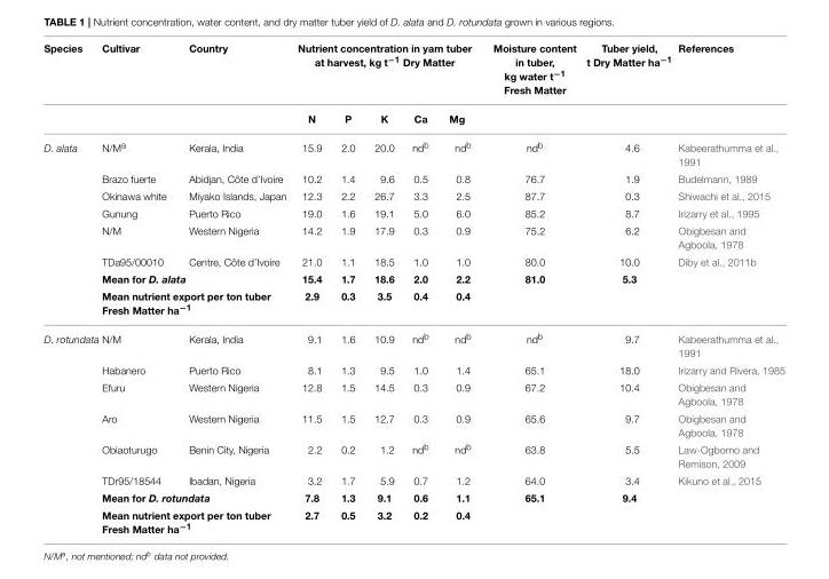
<table><thead><tr><td rowspan="2">Species</td><td rowspan="2">Cultivar</td><td rowspan="2">Country</td><td colspan="5">Nutrient concentration in yam tuber at harvest, kg t<sup>−1</sup> Dry Matter</td><td rowspan="2">Moisture content in tuber, kg water t<sup>−1</sup> Fresh Matter</td><td rowspan="2">Tuber yield, t Dry Matter ha<sup>−1</sup></td><td rowspan="2">References</td></tr><tr><td>N</td><td>P</td><td>K</td><td>Ca</td><td>Mg</td></tr></thead><tbody><tr><td rowspan="8">D. alata</td><td>N/M<sup>a</sup></td><td>Kerala, India</td><td>15.9</td><td>2.0</td><td>20.0</td><td>nd<sup>b</sup></td><td>nd<sup>b</sup></td><td>nd<sup>b</sup></td><td>4.6</td><td>Kabeerathumma et al., 1991</td></tr><tr><td>Brazo fuerte</td><td>Abidjan, Côte d’Ivoire</td><td>10.2</td><td>1.4</td><td>9.6</td><td>0.5</td><td>0.8</td><td>76.7</td><td>1.9</td><td>Budelmann, 1989</td></tr><tr><td>Okinawa white</td><td>Miyako Islands, Japan</td><td>12.3</td><td>2.2</td><td>26.7</td><td>3.3</td><td>2.5</td><td>87.7</td><td>0.3</td><td>Shiwachi et al., 2015</td></tr><tr><td>Gunung</td><td>Puerto Rico</td><td>19.0</td><td>1.6</td><td>19.1</td><td>5.0</td><td>6.0</td><td>85.2</td><td>8.7</td><td>Irizarry et al., 1995</td></tr><tr><td>N/M</td><td>Western Nigeria</td><td>14.2</td><td>1.9</td><td>17.9</td><td>0.3</td><td>0.9</td><td>75.2</td><td>6.2</td><td>Obigbesan and Agboola, 1978</td></tr><tr><td>TDa95/00010</td><td>Centre, Côte d’Ivoire</td><td>21.0</td><td>1.1</td><td>18.5</td><td>1.0</td><td>1.0</td><td>80.0</td><td>10.0</td><td>Diby et al., 2011b</td></tr><tr><td>Mean for D. alata</td><td></td><td>15.4</td><td>1.7</td><td>18.6</td><td>2.0</td><td>2.2</td><td>81.0</td><td>5.3</td><td></td></tr><tr><td colspan="2">Mean nutrient export per ton tuber Fresh Matter ha<sup>−1</sup></td><td>2.9</td><td>0.3</td><td>3.5</td><td>0.4</td><td>0.4</td><td></td><td></td><td></td></tr><tr><td rowspan="8">D. rotundata</td><td>N/M</td><td>Kerala, India</td><td>9.1</td><td>1.6</td><td>10.9</td><td>nd<sup>b</sup></td><td>nd<sup>b</sup></td><td>nd<sup>b</sup></td><td>9.7</td><td>Kabeerathumma et al., 1991</td></tr><tr><td>Habanero</td><td>Puerto Rico</td><td>8.1</td><td>1.3</td><td>9.5</td><td>1.0</td><td>1.4</td><td>65.1</td><td>18.0</td><td>Irizarry and Rivera, 1985</td></tr><tr><td>Efuru</td><td>Western Nigeria</td><td>12.8</td><td>1.5</td><td>14.5</td><td>0.3</td><td>0.9</td><td>67.2</td><td>10.4</td><td>Obigbesan and Agboola, 1978</td></tr><tr><td>Aro</td><td>Western Nigeria</td><td>11.5</td><td>1.5</td><td>12.7</td><td>0.3</td><td>0.9</td><td>65.6</td><td>9.7</td><td>Obigbesan and Agboola, 1978</td></tr><tr><td>Obiaoturugo</td><td>Benin City, Nigeria</td><td>2.2</td><td>0.2</td><td>1.2</td><td>nd<sup>b</sup></td><td>nd<sup>b</sup></td><td>63.8</td><td>5.5</td><td>Law-Ogbomo and Remison, 2009</td></tr><tr><td>TDr95/18544</td><td>Ibadan, Nigeria</td><td>3.2</td><td>1.7</td><td>5.9</td><td>0.7</td><td>1.2</td><td>64.0</td><td>3.4</td><td>Kikuno et al., 2015</td></tr><tr><td colspan="2">Mean for D. rotundata</td><td>7.8</td><td>1.3</td><td>9.1</td><td>0.6</td><td>1.1</td><td>65.1</td><td>9.4</td><td></td></tr><tr><td colspan="2">Mean nutrient export per ton tuber Fresh Matter ha<sup>−1</sup></td><td>2.7</td><td>0.5</td><td>3.2</td><td>0.2</td><td>0.4</td><td></td><td></td><td></td></tr></tbody></table>